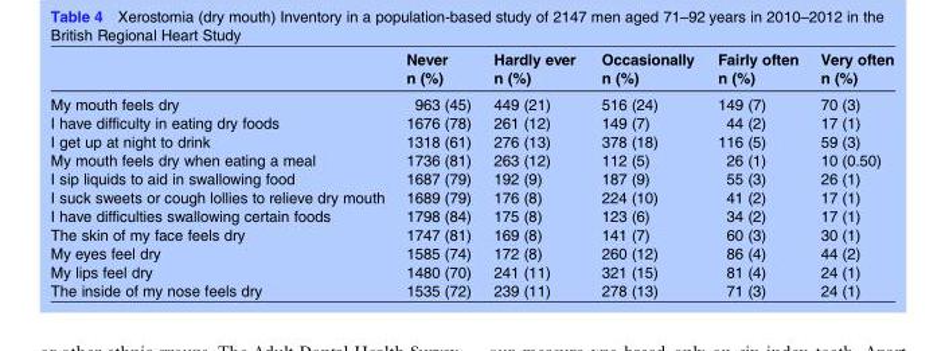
<table><thead><tr><td></td><td>Never n (%)</td><td>Hardly ever n (%)</td><td>Occasionally n (%)</td><td>Fairly often n (%)</td><td>Very often n (%)</td></tr></thead><tbody><tr><td>My mouth feels dry</td><td>963 (45)</td><td>449 (21)</td><td>516 (24)</td><td>149 (7)</td><td>70 (3)</td></tr><tr><td>I have difficulty in eating dry foods</td><td>1676 (78)</td><td>261 (12)</td><td>149 (7)</td><td>44 (2)</td><td>17 (1)</td></tr><tr><td>I get up at night to drink</td><td>1318 (61)</td><td>276 (13)</td><td>378 (18)</td><td>116 (5)</td><td>59 (3)</td></tr><tr><td>My mouth feels dry when eating a meal</td><td>1736 (81)</td><td>263 (12)</td><td>112 (5)</td><td>26 (1)</td><td>10 (0.50)</td></tr><tr><td>I sip liquids to aid in swallowing food</td><td>1687 (79)</td><td>192 (9)</td><td>187 (9)</td><td>55 (3)</td><td>26 (1)</td></tr><tr><td>I suck sweets or cough lollies to relieve dry mouth</td><td>1689 (79)</td><td>176 (8)</td><td>224 (10)</td><td>41 (2)</td><td>17 (1)</td></tr><tr><td>I have difficulties swallowing certain foods</td><td>1798 (84)</td><td>175 (8)</td><td>123 (6)</td><td>34 (2)</td><td>17 (1)</td></tr><tr><td>The skin of my face feels dry</td><td>1747 (81)</td><td>169 (8)</td><td>141 (7)</td><td>60 (3)</td><td>30 (1)</td></tr><tr><td>My eyes feel dry</td><td>1585 (74)</td><td>172 (8)</td><td>260 (12)</td><td>86 (4)</td><td>44 (2)</td></tr><tr><td>My lips feel dry</td><td>1480 (70)</td><td>241 (11)</td><td>321 (15)</td><td>81 (4)</td><td>24 (1)</td></tr><tr><td>The inside of my nose feels dry</td><td>1535 (72)</td><td>239 (11)</td><td>278 (13)</td><td>71 (3)</td><td>24 (1)</td></tr></tbody></table>